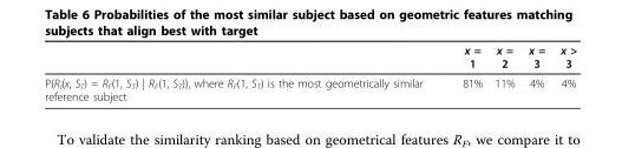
<table><thead><tr><td></td><td>x = 1</td><td>x = 2</td><td>x = 3</td><td>x &gt; 3</td></tr></thead><tbody><tr><td>P(R<sub>I</sub>(x, S<sub>T</sub>) = R<sub>F</sub>(1, S<sub>T</sub>) | R<sub>F</sub>(1, S<sub>T</sub>)), where R<sub>F</sub>(1, S<sub>T</sub>) is the most geometrically similar reference subject</td><td>81%</td><td>11%</td><td>4%</td><td>4%</td></tr></tbody></table>